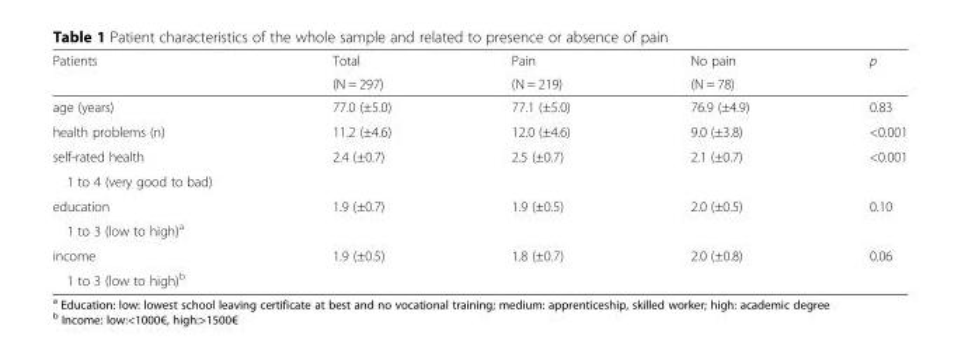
<table><thead><tr><td rowspan="2">Patients</td><td rowspan="2">Total (N = 297)</td><td rowspan="2">Pain (N = 219)</td><td rowspan="2">No pain (N = 78)</td><td rowspan="2">p</td></tr><tr></tr></thead><tbody><tr><td>age (years)</td><td>77.0 (±5.0)</td><td>77.1 (±5.0)</td><td>76.9 (±4.9)</td><td>0.83</td></tr><tr><td>health problems (n)</td><td>11.2 (±4.6)</td><td>12.0 (±4.6)</td><td>9.0 (±3.8)</td><td>&lt;0.001</td></tr><tr><td>self-rated health</td><td rowspan="2">2.4 (±0.7)</td><td rowspan="2">2.5 (±0.7)</td><td rowspan="2">2.1 (±0.7)</td><td rowspan="2">&lt;0.001</td></tr><tr><td>1 to 4 (very good to bad)</td></tr><tr><td>education</td><td rowspan="2">1.9 (±0.7)</td><td rowspan="2">1.9 (±0.5)</td><td rowspan="2">2.0 (±0.5)</td><td rowspan="2">0.10</td></tr><tr><td>1 to 3 (low to high)<sup>a</sup></td></tr><tr><td>income</td><td rowspan="2">1.9 (±0.5)</td><td rowspan="2">1.8 (±0.7)</td><td rowspan="2">2.0 (±0.8)</td><td rowspan="2">0.06</td></tr><tr><td>1 to 3 (low to high)<sup>b</sup></td></tr></tbody></table>